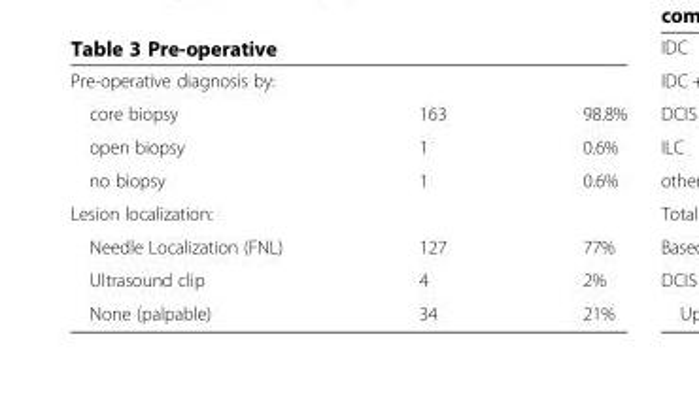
<table><tbody><tr><td colspan="3">Pre-operative diagnosis by:</td></tr><tr><td>core biopsy</td><td>163</td><td>98.8%</td></tr><tr><td>open biopsy</td><td>1</td><td>0.6%</td></tr><tr><td>no biopsy</td><td>1</td><td>0.6%</td></tr><tr><td colspan="3">Lesion localization:</td></tr><tr><td>Needle Localization (FNL)</td><td>127</td><td>77%</td></tr><tr><td>Ultrasound clip</td><td>4</td><td>2%</td></tr><tr><td>None (palpable)</td><td>34</td><td>21%</td></tr></tbody></table>